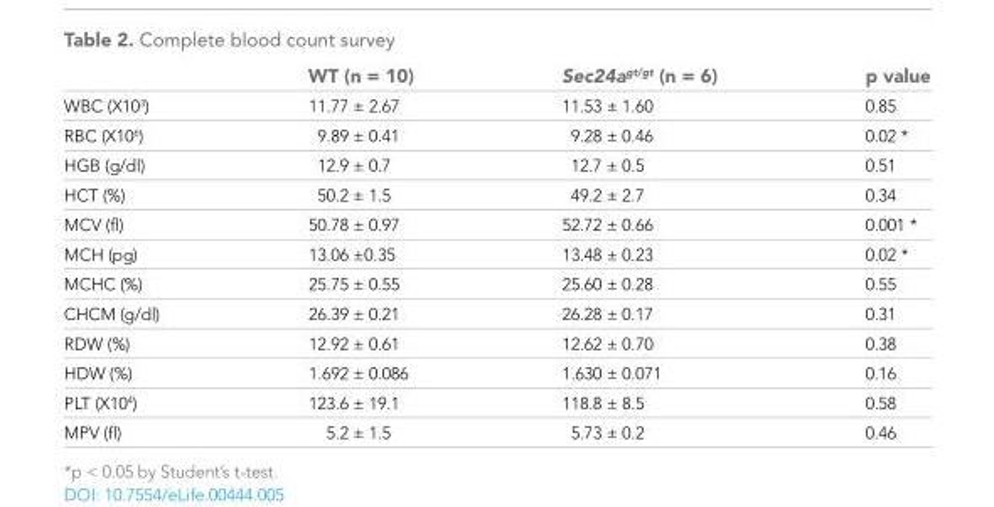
<table><thead><tr><td></td><td>WT (n = 10)</td><td>Sec24a<sup>gt/gt</sup> (n = 6)</td><td>p value</td></tr></thead><tbody><tr><td>WBC (X10<sup>3</sup>)</td><td>11.77 ± 2.67</td><td>11.53 ± 1.60</td><td>0.85</td></tr><tr><td>RBC (X10<sup>6</sup>)</td><td>9.89 ± 0.41</td><td>9.28 ± 0.46</td><td>0.02 *</td></tr><tr><td>HGB (g/dl)</td><td>12.9 ± 0.7</td><td>12.7 ± 0.5</td><td>0.51</td></tr><tr><td>HCT (%)</td><td>50.2 ± 1.5</td><td>49.2 ± 2.7</td><td>0.34</td></tr><tr><td>MCV (fl)</td><td>50.78 ± 0.97</td><td>52.72 ± 0.66</td><td>0.001 *</td></tr><tr><td>MCH (pg)</td><td>13.06 ±0.35</td><td>13.48 ± 0.23</td><td>0.02 *</td></tr><tr><td>MCHC (%)</td><td>25.75 ± 0.55</td><td>25.60 ± 0.28</td><td>0.55</td></tr><tr><td>CHCM (g/dl)</td><td>26.39 ± 0.21</td><td>26.28 ± 0.17</td><td>0.31</td></tr><tr><td>RDW (%)</td><td>12.92 ± 0.61</td><td>12.62 ± 0.70</td><td>0.38</td></tr><tr><td>HDW (%)</td><td>1.692 ± 0.086</td><td>1.630 ± 0.071</td><td>0.16</td></tr><tr><td>PLT (X10<sup>4</sup>)</td><td>123.6 ± 19.1</td><td>118.8 ± 8.5</td><td>0.58</td></tr><tr><td>MPV (fl)</td><td>5.2 ± 1.5</td><td>5.73 ± 0.2</td><td>0.46</td></tr></tbody></table>